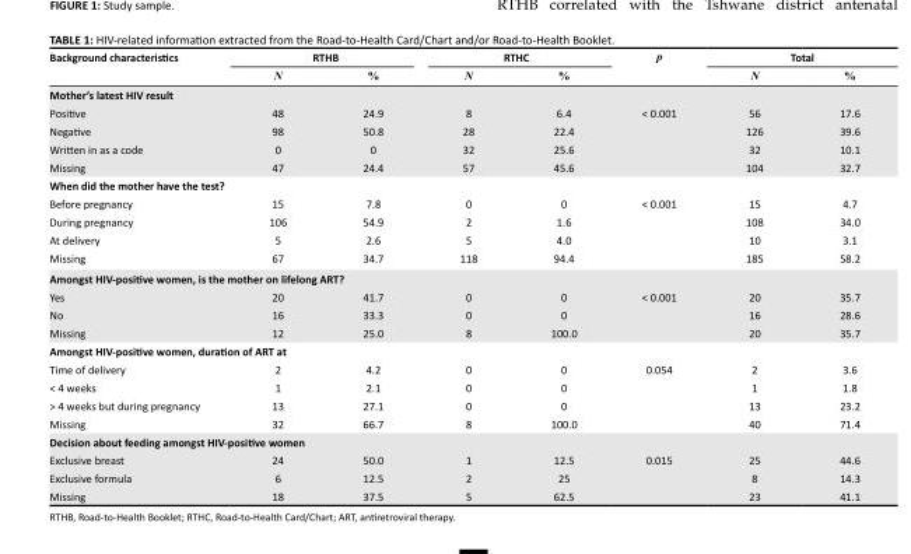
<table><thead><tr><td rowspan="2">Background characteristics</td><td colspan="2">RTHB</td><td colspan="2">RTHC</td><td rowspan="2">p</td><td colspan="2">Total</td></tr><tr><td>N</td><td>%</td><td>N</td><td>%</td><td>N</td><td>%</td></tr></thead><tbody><tr><td colspan="8">Mother’s latest HIV result</td></tr><tr><td>Positive</td><td>48</td><td>24.9</td><td>8</td><td>6.4</td><td rowspan="4">&lt; 0.001</td><td>56</td><td>17.6</td></tr><tr><td>Negative</td><td>98</td><td>50.8</td><td>28</td><td>22.4</td><td>126</td><td>39.6</td></tr><tr><td>Written in as a code</td><td>0</td><td>0</td><td>32</td><td>25.6</td><td>32</td><td>10.1</td></tr><tr><td>Missing</td><td>47</td><td>24.4</td><td>57</td><td>45.6</td><td>104</td><td>32.7</td></tr><tr><td colspan="8">When did the mother have the test?</td></tr><tr><td>Before pregnancy</td><td>15</td><td>7.8</td><td>0</td><td>0</td><td rowspan="4">&lt; 0.001</td><td>15</td><td>4.7</td></tr><tr><td>During pregnancy</td><td>106</td><td>54.9</td><td>2</td><td>1.6</td><td>108</td><td>34.0</td></tr><tr><td>At delivery</td><td>5</td><td>2.6</td><td>5</td><td>4.0</td><td>10</td><td>3.1</td></tr><tr><td>Missing</td><td>67</td><td>34.7</td><td>118</td><td>94.4</td><td>185</td><td>58.2</td></tr><tr><td colspan="8">Amongst HIV-positive women, is the mother on lifelong ART?</td></tr><tr><td>Yes</td><td>20</td><td>41.7</td><td>0</td><td>0</td><td rowspan="3">&lt; 0.001</td><td>20</td><td>35.7</td></tr><tr><td>No</td><td>16</td><td>33.3</td><td>0</td><td>0</td><td>16</td><td>28.6</td></tr><tr><td>Missing</td><td>12</td><td>25.0</td><td>8</td><td>100.0</td><td>20</td><td>35.7</td></tr><tr><td colspan="8">Amongst HIV-positive women, duration of ART at</td></tr><tr><td>Time of delivery</td><td>2</td><td>4.2</td><td>0</td><td>0</td><td rowspan="4">0.054</td><td>2</td><td>3.6</td></tr><tr><td>&lt; 4 weeks</td><td>1</td><td>2.1</td><td>0</td><td>0</td><td>1</td><td>1.8</td></tr><tr><td>&gt; 4 weeks but during pregnancy</td><td>13</td><td>27.1</td><td>0</td><td>0</td><td>13</td><td>23.2</td></tr><tr><td>Missing</td><td>32</td><td>66.7</td><td>8</td><td>100.0</td><td>40</td><td>71.4</td></tr><tr><td colspan="8">Decision about feeding amongst HIV-positive women</td></tr><tr><td>Exclusive breast</td><td>24</td><td>50.0</td><td>1</td><td>12.5</td><td rowspan="3">0.015</td><td>25</td><td>44.6</td></tr><tr><td>Exclusive formula</td><td>6</td><td>12.5</td><td>2</td><td>25</td><td>8</td><td>14.3</td></tr><tr><td>Missing</td><td>18</td><td>37.5</td><td>5</td><td>62.5</td><td>23</td><td>41.1</td></tr></tbody></table>